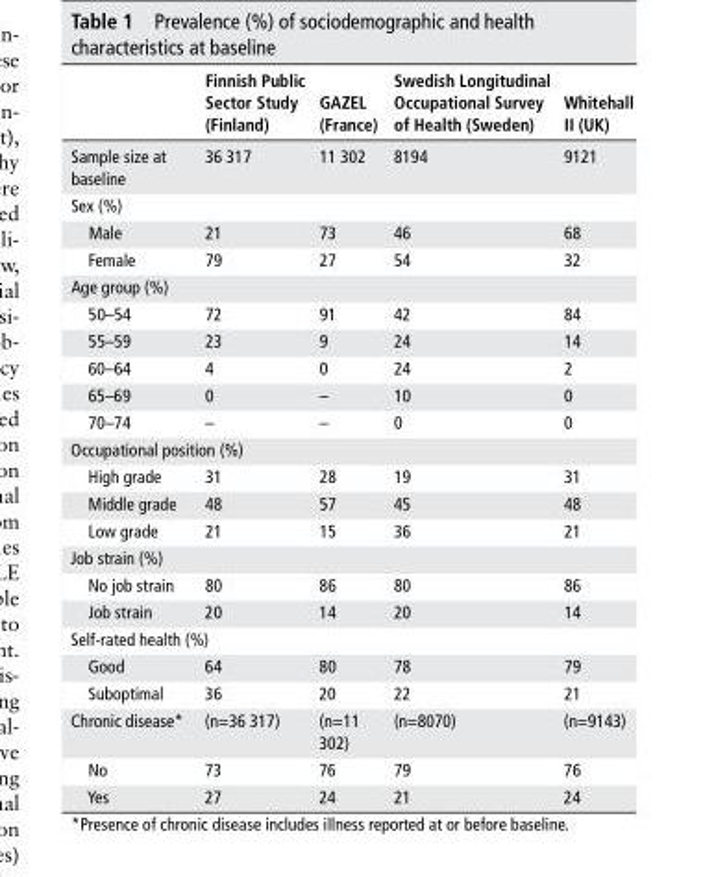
<table><thead><tr><td></td><td>Finnish Public sector study (Finland)</td><td>GAZel (France)</td><td>swedish longitudinal Occupational survey of health (sweden)</td><td>Whitehall II (uK)</td></tr></thead><tbody><tr><td>Sample size at baseline</td><td>36 317</td><td>11 302</td><td>8194</td><td>9121</td></tr><tr><td colspan="5">Sex (%)</td></tr><tr><td>Male</td><td>21</td><td>73</td><td>46</td><td>68</td></tr><tr><td>Female</td><td>79</td><td>27</td><td>54</td><td>32</td></tr><tr><td colspan="5">Age group (%)</td></tr><tr><td>50–54</td><td>72</td><td>91</td><td>42</td><td>84</td></tr><tr><td>55–59</td><td>23</td><td>9</td><td>24</td><td>14</td></tr><tr><td>60–64</td><td>4</td><td>0</td><td>24</td><td>2</td></tr><tr><td>65–69</td><td>0</td><td>–</td><td>10</td><td>0</td></tr><tr><td>70–74</td><td>–</td><td>–</td><td>0</td><td>0</td></tr><tr><td colspan="5">Occupational position (%)</td></tr><tr><td>High grade</td><td>31</td><td>28</td><td>19</td><td>31</td></tr><tr><td>Middle grade</td><td>48</td><td>57</td><td>45</td><td>48</td></tr><tr><td>Low grade</td><td>21</td><td>15</td><td>36</td><td>21</td></tr><tr><td colspan="5">Job strain (%)</td></tr><tr><td>No job strain</td><td>80</td><td>86</td><td>80</td><td>86</td></tr><tr><td>Job strain</td><td>20</td><td>14</td><td>20</td><td>14</td></tr><tr><td colspan="5">Self-rated health (%)</td></tr><tr><td>Good</td><td>64</td><td>80</td><td>78</td><td>79</td></tr><tr><td>Suboptimal</td><td>36</td><td>20</td><td>22</td><td>21</td></tr><tr><td>Chronic disease*</td><td>(n=36 317)</td><td>(n=11 302)</td><td>(n=8070)</td><td>(n=9143)</td></tr><tr><td>No</td><td>73</td><td>76</td><td>79</td><td>76</td></tr><tr><td>Yes</td><td>27</td><td>24</td><td>21</td><td>24</td></tr></tbody></table>